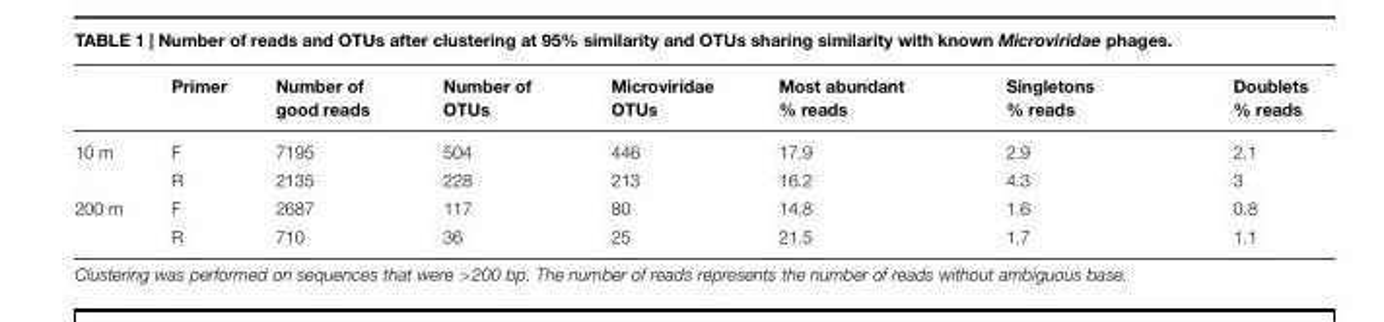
<table><thead><tr><td></td><td>Primer</td><td>Number of good reads</td><td>Number of OTUs</td><td>Microviridae OTUs</td><td>Most abundant % reads</td><td>Singletons % reads</td><td>Doublets % reads</td></tr></thead><tbody><tr><td rowspan="2">10 m</td><td>F</td><td>7195</td><td>504</td><td>446</td><td>17.9</td><td>2.9</td><td>2.1</td></tr><tr><td>R</td><td>2135</td><td>228</td><td>213</td><td>16.2</td><td>4.3</td><td>3</td></tr><tr><td rowspan="2">200 m</td><td>F</td><td>2687</td><td>117</td><td>80</td><td>14.8</td><td>1.6</td><td>0.8</td></tr><tr><td>R</td><td>710</td><td>36</td><td>25</td><td>21.5</td><td>1.7</td><td>1.1</td></tr></tbody></table>